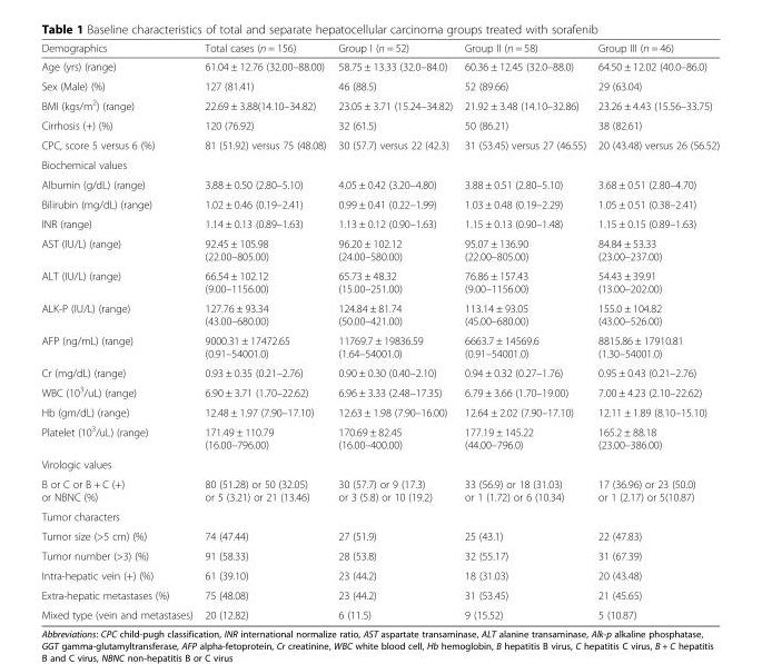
<table><thead><tr><td>Demographics</td><td>Total cases (n = 156)</td><td>Group I (n = 52)</td><td>Group II (n = 58)</td><td>Group III (n = 46)</td></tr></thead><tbody><tr><td>Age (yrs) (range)</td><td>61.04 ± 12.76 (32.00–88.00)</td><td>58.75 ± 13.33 (32.0–84.0)</td><td>60.36 ± 12.45 (32.0–88.0)</td><td>64.50 ± 12.02 (40.0–86.0)</td></tr><tr><td>Sex (Male) (%)</td><td>127 (81.41)</td><td>46 (88.5)</td><td>52 (89.66)</td><td>29 (63.04)</td></tr><tr><td>BMI (kgs/m<sup>2</sup>) (range)</td><td>22.69 ± 3.88(14.10–34.82)</td><td>23.05 ± 3.71 (15.24–34.82)</td><td>21.92 ± 3.48 (14.10–32.86)</td><td>23.26 ± 4.43 (15.56–33.75)</td></tr><tr><td>Cirrhosis (+) (%)</td><td>120 (76.92)</td><td>32 (61.5)</td><td>50 (86.21)</td><td>38 (82.61)</td></tr><tr><td>CPC, score 5 versus 6 (%)</td><td>81 (51.92) versus 75 (48.08)</td><td>30 (57.7) versus 22 (42.3)</td><td>31 (53.45) versus 27 (46.55)</td><td>20 (43.48) versus 26 (56.52)</td></tr><tr><td colspan="5">Biochemical values</td></tr><tr><td>Albumin (g/dL) (range)</td><td>3.88 ± 0.50 (2.80–5.10)</td><td>4.05 ± 0.42 (3.20–4.80)</td><td>3.88 ± 0.51 (2.80–5.10)</td><td>3.68 ± 0.51 (2.80–4.70)</td></tr><tr><td>Bilirubin (mg/dL) (range)</td><td>1.02 ± 0.46 (0.19–2.41)</td><td>0.99 ± 0.41 (0.22–1.99)</td><td>1.03 ± 0.48 (0.19–2.29)</td><td>1.05 ± 0.51 (0.38–2.41)</td></tr><tr><td>INR (range)</td><td>1.14 ± 0.13 (0.89–1.63)</td><td>1.13 ± 0.12 (0.90–1.63)</td><td>1.15 ± 0.13 (0.90–1.48)</td><td>1.15 ± 0.15 (0.89–1.63)</td></tr><tr><td>AST (IU/L) (range)</td><td>92.45 ± 105.98 (22.00–805.00)</td><td>96.20 ± 102.12 (24.00–580.00)</td><td>95.07 ± 136.90 (22.00–805.00)</td><td>84.84 ± 53.33 (23.00–237.00)</td></tr><tr><td>ALT (IU/L) (range)</td><td>66.54 ± 102.12 (9.00–1156.00)</td><td>65.73 ± 48.32 (15.00–251.00)</td><td>76.86 ± 157.43 (9.00–1156.00)</td><td>54.43 ± 39.91 (13.00–202.00)</td></tr><tr><td>ALK-P (IU/L) (range)</td><td>127.76 ± 93.34 (43.00–680.00)</td><td>124.84 ± 81.74 (50.00–421.00)</td><td>113.14 ± 93.05 (45.00–680.00)</td><td>155.0 ± 104.82 (43.00–526.00)</td></tr><tr><td>AFP (ng/mL) (range)</td><td>9000.31 ± 17472.65 (0.91–54001.0)</td><td>11769.7 ± 19836.59 (1.64–54001.0)</td><td>6663.7 ± 14569.6 (0.91–54001.0)</td><td>8815.86 ± 17910.81 (1.30–54001.0)</td></tr><tr><td>Cr (mg/dL) (range)</td><td>0.93 ± 0.35 (0.21–2.76)</td><td>0.90 ± 0.30 (0.40–2.10)</td><td>0.94 ± 0.32 (0.27–1.76)</td><td>0.95 ± 0.43 (0.21–2.76)</td></tr><tr><td>WBC (10<sup>3</sup>/uL) (range)</td><td>6.90 ± 3.71 (1.70–22.62)</td><td>6.96 ± 3.33 (2.48–17.35)</td><td>6.79 ± 3.66 (1.70–19.00)</td><td>7.00 ± 4.23 (2.10–22.62)</td></tr><tr><td>Hb (gm/dL) (range)</td><td>12.48 ± 1.97 (7.90–17.10)</td><td>12.63 ± 1.98 (7.90–16.00)</td><td>12.64 ± 2.02 (7.90–17.10)</td><td>12.11 ± 1.89 (8.10–15.10)</td></tr><tr><td>Platelet (10<sup>3</sup>/uL) (range)</td><td>171.49 ± 110.79 (16.00–796.00)</td><td>170.69 ± 82.45 (16.00–400.00)</td><td>177.19 ± 145.22 (44.00–796.0)</td><td>165.2 ± 88.18 (23.00–386.00)</td></tr><tr><td colspan="5">Virologic values</td></tr><tr><td>B or C or B + C (+) or NBNC (%)</td><td>80 (51.28) or 50 (32.05) or 5 (3.21) or 21 (13.46)</td><td>30 (57.7) or 9 (17.3) or 3 (5.8) or 10 (19.2)</td><td>33 (56.9) or 18 (31.03) or 1 (1.72) or 6 (10.34)</td><td>17 (36.96) or 23 (50.0) or 1 (2.17) or 5(10.87)</td></tr><tr><td colspan="5">Tumor characters</td></tr><tr><td>Tumor size (&gt;5 cm) (%)</td><td>74 (47.44)</td><td>27 (51.9)</td><td>25 (43.1)</td><td>22 (47.83)</td></tr><tr><td>Tumor number (&gt;3) (%)</td><td>91 (58.33)</td><td>28 (53.8)</td><td>32 (55.17)</td><td>31 (67.39)</td></tr><tr><td>Intra-hepatic vein (+) (%)</td><td>61 (39.10)</td><td>23 (44.2)</td><td>18 (31.03)</td><td>20 (43.48)</td></tr><tr><td>Extra-hepatic metastases (%)</td><td>75 (48.08)</td><td>23 (44.2)</td><td>31 (53.45)</td><td>21 (45.65)</td></tr><tr><td>Mixed type (vein and metastases)</td><td>20 (12.82)</td><td>6 (11.5)</td><td>9 (15.52)</td><td>5 (10.87)</td></tr></tbody></table>